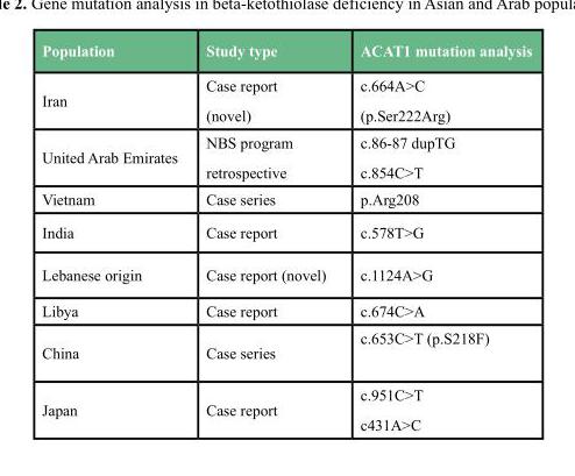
<table><thead><tr><td>Population</td><td>Study type</td><td>ACAT1 mutation analysis</td></tr></thead><tbody><tr><td>Iran</td><td>Case report (novel)</td><td>c.664A&gt;C (p.Ser222Arg)</td></tr><tr><td>United Arab Emirates</td><td>NBS program retrospective</td><td>c.86-87 dupTG c.854C&gt;T</td></tr><tr><td>Vietnam</td><td>Case series</td><td>p.Arg208</td></tr><tr><td>India</td><td>Case report</td><td>c.578T&gt;G</td></tr><tr><td>Lebanese origin</td><td>Case report (novel)</td><td>c.1124A&gt;G</td></tr><tr><td>Libya</td><td>Case report</td><td>c.674C&gt;A</td></tr><tr><td>China</td><td>Case series</td><td>c.653C&gt;T (p.S218F)</td></tr><tr><td>Japan</td><td>Case report</td><td>c.951C&gt;T c431A&gt;C</td></tr></tbody></table>